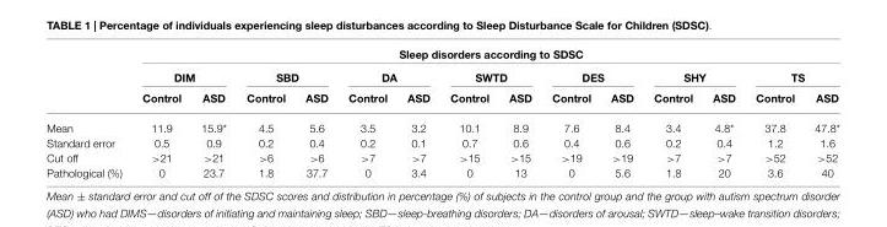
<table><thead><tr><td rowspan="3"></td><td colspan="14">Sleep disorders according to SDSC</td></tr><tr><td colspan="2">DIM</td><td colspan="2">SBD</td><td colspan="2">DA</td><td colspan="2">SWTD</td><td colspan="2">DES</td><td colspan="2">SHY</td><td colspan="2">TS</td></tr><tr><td>Control</td><td>ASD</td><td>Control</td><td>ASD</td><td>Control</td><td>ASD</td><td>Control</td><td>ASD</td><td>Control</td><td>ASD</td><td>Control</td><td>ASD</td><td>Control</td><td>ASD</td></tr></thead><tbody><tr><td>Mean</td><td>11.9</td><td>15.9*</td><td>4.5</td><td>5.6</td><td>3.5</td><td>3.2</td><td>10.1</td><td>8.9</td><td>7.6</td><td>8.4</td><td>3.4</td><td>4.8*</td><td>37.8</td><td>47.8*</td></tr><tr><td>Standard error</td><td>0.5</td><td>0.9</td><td>0.2</td><td>0.4</td><td>0.2</td><td>0.1</td><td>0.7</td><td>0.6</td><td>0.4</td><td>0.6</td><td>0.2</td><td>0.4</td><td>1.2</td><td>1.6</td></tr><tr><td>Cut off</td><td>&gt;21</td><td>&gt;21</td><td>&gt;6</td><td>&gt;6</td><td>&gt;7</td><td>&gt;7</td><td>&gt;15</td><td>&gt;15</td><td>&gt;19</td><td>&gt;19</td><td>&gt;7</td><td>&gt;7</td><td>&gt;52</td><td>&gt;52</td></tr><tr><td>Pathological (%)</td><td>0</td><td>23.7</td><td>1.8</td><td>37.7</td><td>0</td><td>3.4</td><td>0</td><td>13</td><td>0</td><td>5.6</td><td>1.8</td><td>20</td><td>3.6</td><td>40</td></tr></tbody></table>